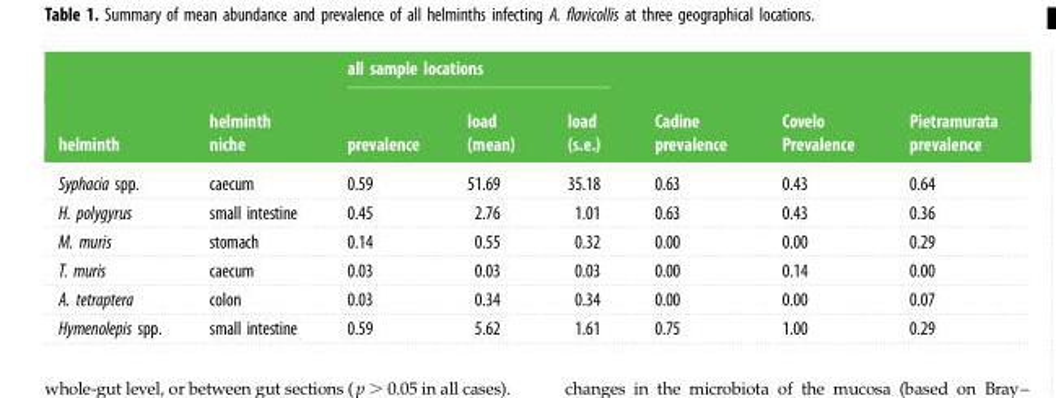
<table><thead><tr><td rowspan="2">helminth</td><td rowspan="2">helminth niche</td><td colspan="3">all sample locations</td><td rowspan="2">Cadine prevalence</td><td rowspan="2">Covelo Prevalence</td><td rowspan="2">Pietramurata prevalence</td></tr><tr><td>prevalence</td><td>load (mean)</td><td>load (s.e.)</td></tr></thead><tbody><tr><td>Syphacia spp.</td><td>caecum</td><td>0.59</td><td>51.69</td><td>35.18</td><td>0.63</td><td>0.43</td><td>0.64</td></tr><tr><td>H. polygyrus</td><td>small intestine</td><td>0.45</td><td>2.76</td><td>1.01</td><td>0.63</td><td>0.43</td><td>0.36</td></tr><tr><td>M. muris</td><td>stomach</td><td>0.14</td><td>0.55</td><td>0.32</td><td>0.00</td><td>0.00</td><td>0.29</td></tr><tr><td>T. muris</td><td>caecum</td><td>0.03</td><td>0.03</td><td>0.03</td><td>0.00</td><td>0.14</td><td>0.00</td></tr><tr><td>A. tetraptera</td><td>colon</td><td>0.03</td><td>0.34</td><td>0.34</td><td>0.00</td><td>0.00</td><td>0.07</td></tr><tr><td>Hymenolepis spp.</td><td>small intestine</td><td>0.59</td><td>5.62</td><td>1.61</td><td>0.75</td><td>1.00</td><td>0.29</td></tr></tbody></table>